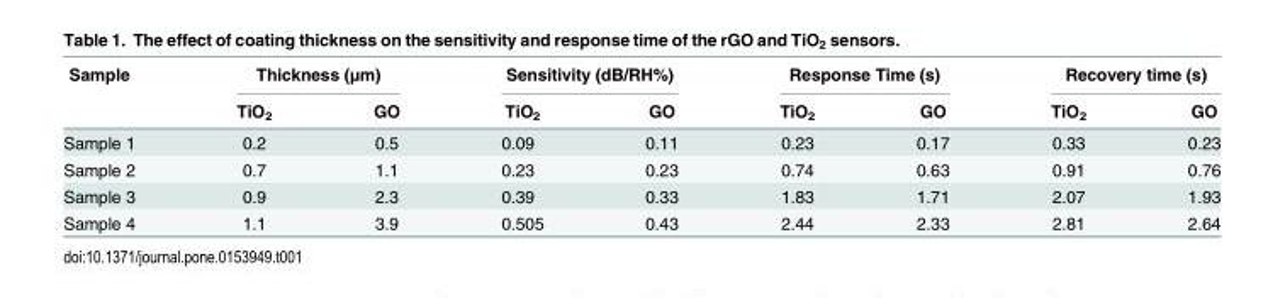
<table><thead><tr><td rowspan="2">Sample</td><td colspan="2">Thickness (μm)</td><td colspan="2">Sensitivity (dB/RH%)</td><td colspan="2">Response Time (s)</td><td colspan="2">Recovery time (s)</td></tr><tr><td>TiO<sub>2</sub></td><td>GO</td><td>TiO<sub>2</sub></td><td>GO</td><td>TiO<sub>2</sub></td><td>GO</td><td>TiO<sub>2</sub></td><td>GO</td></tr></thead><tbody><tr><td>Sample 1</td><td>0.2</td><td>0.5</td><td>0.09</td><td>0.11</td><td>0.23</td><td>0.17</td><td>0.33</td><td>0.23</td></tr><tr><td>Sample 2</td><td>0.7</td><td>1.1</td><td>0.23</td><td>0.23</td><td>0.74</td><td>0.63</td><td>0.91</td><td>0.76</td></tr><tr><td>Sample 3</td><td>0.9</td><td>2.3</td><td>0.39</td><td>0.33</td><td>1.83</td><td>1.71</td><td>2.07</td><td>1.93</td></tr><tr><td>Sample 4</td><td>1.1</td><td>3.9</td><td>0.505</td><td>0.43</td><td>2.44</td><td>2.33</td><td>2.81</td><td>2.64</td></tr></tbody></table>